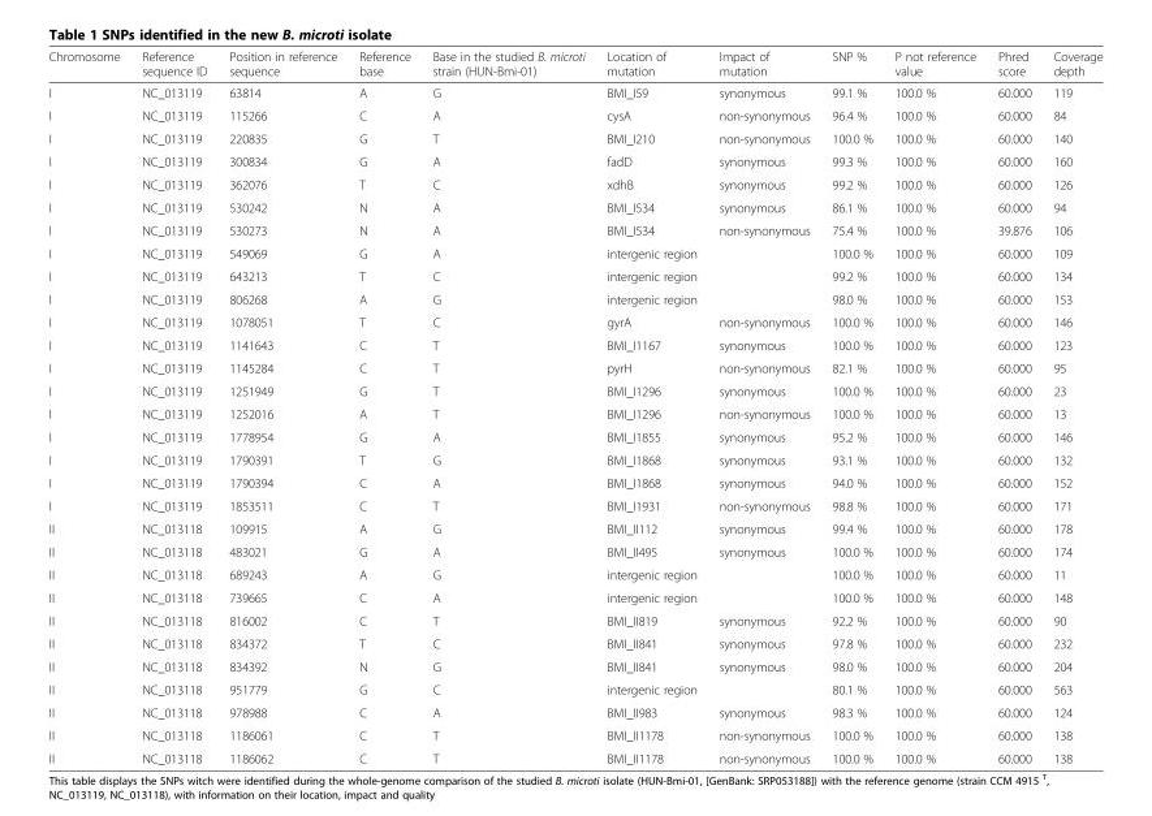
<table><thead><tr><td>Chromosome</td><td>Reference sequence ID</td><td>Position in reference sequence</td><td>Reference base</td><td>Base in the studied B. microti strain (HUN-Bmi-01)</td><td>Location of mutation</td><td>Impact of mutation</td><td>SNP %</td><td>P not reference value</td><td>Phred score</td><td>Coverage depth</td></tr></thead><tbody><tr><td>I</td><td>NC_013119</td><td>63814</td><td>A</td><td>G</td><td>BMI_I59</td><td>synonymous</td><td>99.1 %</td><td>100.0 %</td><td>60.000</td><td>119</td></tr><tr><td>I</td><td>NC_013119</td><td>115266</td><td>C</td><td>A</td><td>cysA</td><td>non-synonymous</td><td>96.4 %</td><td>100.0 %</td><td>60.000</td><td>84</td></tr><tr><td>I</td><td>NC_013119</td><td>220835</td><td>G</td><td>T</td><td>BMI_I210</td><td>non-synonymous</td><td>100.0 %</td><td>100.0 %</td><td>60.000</td><td>140</td></tr><tr><td>I</td><td>NC_013119</td><td>300834</td><td>G</td><td>A</td><td>fadD</td><td>synonymous</td><td>99.3 %</td><td>100.0 %</td><td>60.000</td><td>160</td></tr><tr><td>I</td><td>NC_013119</td><td>362076</td><td>T</td><td>C</td><td>xdhB</td><td>synonymous</td><td>99.2 %</td><td>100.0 %</td><td>60.000</td><td>126</td></tr><tr><td>I</td><td>NC_013119</td><td>530242</td><td>N</td><td>A</td><td>BMI_I534</td><td>synonymous</td><td>86.1 %</td><td>100.0 %</td><td>60.000</td><td>94</td></tr><tr><td>I</td><td>NC_013119</td><td>530273</td><td>N</td><td>A</td><td>BMI_I534</td><td>non-synonymous</td><td>75.4 %</td><td>100.0 %</td><td>39.876</td><td>106</td></tr><tr><td>I</td><td>NC_013119</td><td>549069</td><td>G</td><td>A</td><td>intergenic region</td><td></td><td>100.0 %</td><td>100.0 %</td><td>60.000</td><td>109</td></tr><tr><td>I</td><td>NC_013119</td><td>643213</td><td>T</td><td>C</td><td>intergenic region</td><td></td><td>99.2 %</td><td>100.0 %</td><td>60.000</td><td>134</td></tr><tr><td>I</td><td>NC_013119</td><td>806268</td><td>A</td><td>G</td><td>intergenic region</td><td></td><td>98.0 %</td><td>100.0 %</td><td>60.000</td><td>153</td></tr><tr><td>I</td><td>NC_013119</td><td>1078051</td><td>T</td><td>C</td><td>gyrA</td><td>non-synonymous</td><td>100.0 %</td><td>100.0 %</td><td>60.000</td><td>146</td></tr><tr><td>I</td><td>NC_013119</td><td>1141643</td><td>C</td><td>T</td><td>BMI_I1167</td><td>synonymous</td><td>100.0 %</td><td>100.0 %</td><td>60.000</td><td>123</td></tr><tr><td>I</td><td>NC_013119</td><td>1145284</td><td>C</td><td>T</td><td>pyrH</td><td>non-synonymous</td><td>82.1 %</td><td>100.0 %</td><td>60.000</td><td>95</td></tr><tr><td>I</td><td>NC_013119</td><td>1251949</td><td>G</td><td>T</td><td>BMI_I1296</td><td>synonymous</td><td>100.0 %</td><td>100.0 %</td><td>60.000</td><td>23</td></tr><tr><td>I</td><td>NC_013119</td><td>1252016</td><td>A</td><td>T</td><td>BMI_I1296</td><td>non-synonymous</td><td>100.0 %</td><td>100.0 %</td><td>60.000</td><td>13</td></tr><tr><td>I</td><td>NC_013119</td><td>1778954</td><td>G</td><td>A</td><td>BMI_I1855</td><td>synonymous</td><td>95.2 %</td><td>100.0 %</td><td>60.000</td><td>146</td></tr><tr><td>I</td><td>NC_013119</td><td>1790391</td><td>T</td><td>G</td><td>BMI_I1868</td><td>synonymous</td><td>93.1 %</td><td>100.0 %</td><td>60.000</td><td>132</td></tr><tr><td>I</td><td>NC_013119</td><td>1790394</td><td>C</td><td>A</td><td>BMI_I1868</td><td>synonymous</td><td>94.0 %</td><td>100.0 %</td><td>60.000</td><td>152</td></tr><tr><td>I</td><td>NC_013119</td><td>1853511</td><td>C</td><td>T</td><td>BMI_I1931</td><td>non-synonymous</td><td>98.8 %</td><td>100.0 %</td><td>60.000</td><td>171</td></tr><tr><td>II</td><td>NC_013118</td><td>109915</td><td>A</td><td>G</td><td>BMI_II112</td><td>synonymous</td><td>99.4 %</td><td>100.0 %</td><td>60.000</td><td>178</td></tr><tr><td>II</td><td>NC_013118</td><td>483021</td><td>G</td><td>A</td><td>BMI_II495</td><td>synonymous</td><td>100.0 %</td><td>100.0 %</td><td>60.000</td><td>174</td></tr><tr><td>II</td><td>NC_013118</td><td>689243</td><td>A</td><td>G</td><td>intergenic region</td><td></td><td>100.0 %</td><td>100.0 %</td><td>60.000</td><td>11</td></tr><tr><td>II</td><td>NC_013118</td><td>739665</td><td>C</td><td>A</td><td>intergenic region</td><td></td><td>100.0 %</td><td>100.0 %</td><td>60.000</td><td>148</td></tr><tr><td>II</td><td>NC_013118</td><td>816002</td><td>C</td><td>T</td><td>BMI_II819</td><td>synonymous</td><td>92.2 %</td><td>100.0 %</td><td>60.000</td><td>90</td></tr><tr><td>II</td><td>NC_013118</td><td>834372</td><td>T</td><td>C</td><td>BMI_II841</td><td>synonymous</td><td>97.8 %</td><td>100.0 %</td><td>60.000</td><td>232</td></tr><tr><td>II</td><td>NC_013118</td><td>834392</td><td>N</td><td>G</td><td>BMI_II841</td><td>synonymous</td><td>98.0 %</td><td>100.0 %</td><td>60.000</td><td>204</td></tr><tr><td>II</td><td>NC_013118</td><td>951779</td><td>G</td><td>C</td><td>intergenic region</td><td></td><td>80.1 %</td><td>100.0 %</td><td>60.000</td><td>563</td></tr><tr><td>II</td><td>NC_013118</td><td>978988</td><td>C</td><td>A</td><td>BMI_II983</td><td>synonymous</td><td>98.3 %</td><td>100.0 %</td><td>60.000</td><td>124</td></tr><tr><td>II</td><td>NC_013118</td><td>1186061</td><td>C</td><td>T</td><td>BMI_II1178</td><td>non-synonymous</td><td>100.0 %</td><td>100.0 %</td><td>60.000</td><td>138</td></tr><tr><td>II</td><td>NC_013118</td><td>1186062</td><td>C</td><td>T</td><td>BMI_II1178</td><td>non-synonymous</td><td>100.0 %</td><td>100.0 %</td><td>60.000</td><td>138</td></tr></tbody></table>